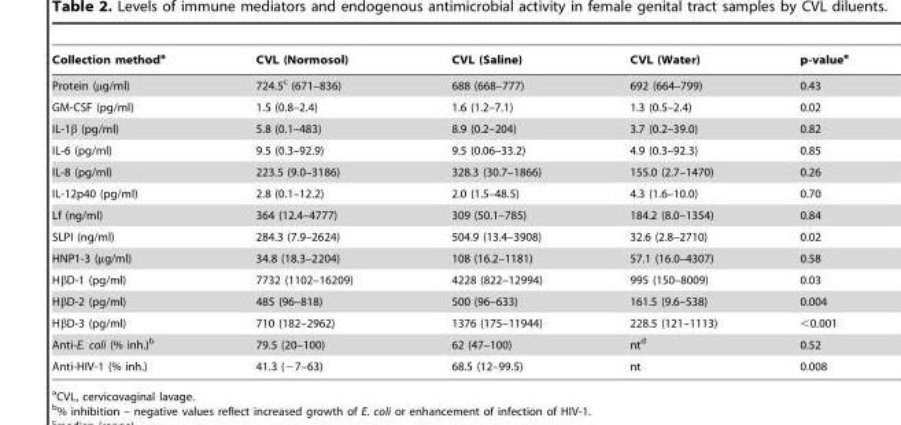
<table><thead><tr><td>Collection method<sup>a</sup></td><td>CVL (Normosol)</td><td>CVL (Saline)</td><td>CVL (Water)</td><td>p-value<sup>e</sup></td></tr></thead><tbody><tr><td>Protein (µg/ml)</td><td>724.5<sup>c</sup> (671–836)</td><td>688 (668–777)</td><td>692 (664–799)</td><td>0.43</td></tr><tr><td>GM-CSF (pg/ml)</td><td>1.5 (0.8–2.4)</td><td>1.6 (1.2–7.1)</td><td>1.3 (0.5–2.4)</td><td>0.02</td></tr><tr><td>IL-1β (pg/ml)</td><td>5.8 (0.1–483)</td><td>8.9 (0.2–204)</td><td>3.7 (0.2–39.0)</td><td>0.82</td></tr><tr><td>IL-6 (pg/ml)</td><td>9.5 (0.3–92.9)</td><td>9.5 (0.06–33.2)</td><td>4.9 (0.3–92.3)</td><td>0.85</td></tr><tr><td>IL-8 (pg/ml)</td><td>223.5 (9.0–3186)</td><td>328.3 (30.7–1866)</td><td>155.0 (2.7–1470)</td><td>0.26</td></tr><tr><td>IL-12p40 (pg/ml)</td><td>2.8 (0.1–12.2)</td><td>2.0 (1.5–48.5)</td><td>4.3 (1.6–10.0)</td><td>0.70</td></tr><tr><td>Lf (ng/ml)</td><td>364 (12.4–4777)</td><td>309 (50.1–785)</td><td>184.2 (8.0–1354)</td><td>0.84</td></tr><tr><td>SLPI (ng/ml)</td><td>284.3 (7.9–2624)</td><td>504.9 (13.4–3908)</td><td>32.6 (2.8–2710)</td><td>0.02</td></tr><tr><td>HNP1-3 (µg/ml)</td><td>34.8 (18.3–2204)</td><td>108 (16.2–1181)</td><td>57.1 (16.0–4307)</td><td>0.58</td></tr><tr><td>HβD-1 (pg/ml)</td><td>7732 (1102–16209)</td><td>4228 (822–12994)</td><td>995 (150–8009)</td><td>0.03</td></tr><tr><td>HβD-2 (pg/ml)</td><td>485 (96–818)</td><td>500 (96–633)</td><td>161.5 (9.6–538)</td><td>0.004</td></tr><tr><td>HβD-3 (pg/ml)</td><td>710 (182–2962)</td><td>1376 (175–11944)</td><td>228.5 (121–1113)</td><td>&lt;0.001</td></tr><tr><td>Anti-E. coli (% inh.)<sup>b</sup></td><td>79.5 (20–100)</td><td>62 (47–100)</td><td>nt<sup>d</sup></td><td>0.52</td></tr><tr><td>Anti-HIV-1 (% inh.)</td><td>41.3 (−7–63)</td><td>68.5 (12–99.5)</td><td>nt</td><td>0.008</td></tr></tbody></table>